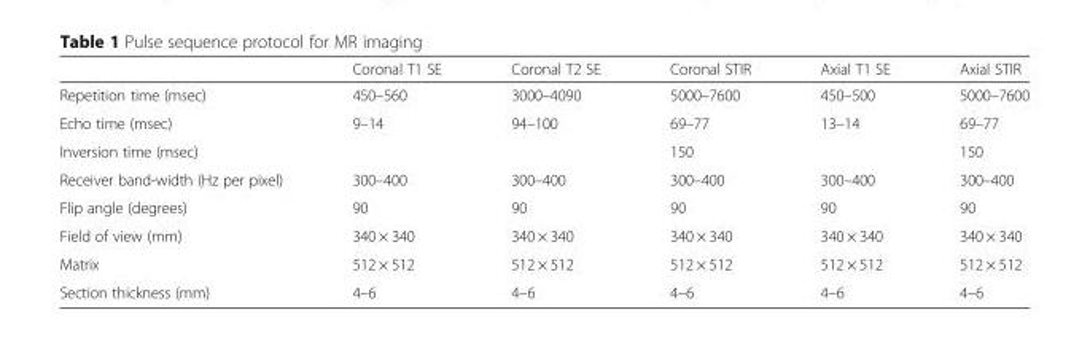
<table><thead><tr><td></td><td>Coronal T1 SE</td><td>Coronal T2 SE</td><td>Coronal STIR</td><td>Axial T1 SE</td><td>Axial STIR</td></tr></thead><tbody><tr><td>Repetition time (msec)</td><td>450–560</td><td>3000–4090</td><td>5000–7600</td><td>450–500</td><td>5000–7600</td></tr><tr><td>Echo time (msec)</td><td>9–14</td><td>94–100</td><td>69–77</td><td>13–14</td><td>69–77</td></tr><tr><td>Inversion time (msec)</td><td></td><td></td><td>150</td><td></td><td>150</td></tr><tr><td>Receiver band-width (Hz per pixel)</td><td>300–400</td><td>300–400</td><td>300–400</td><td>300–400</td><td>300–400</td></tr><tr><td>Flip angle (degrees)</td><td>90</td><td>90</td><td>90</td><td>90</td><td>90</td></tr><tr><td>Field of view (mm)</td><td>340 × 340</td><td>340 × 340</td><td>340 × 340</td><td>340 × 340</td><td>340 × 340</td></tr><tr><td>Matrix</td><td>512 × 512</td><td>512 × 512</td><td>512 × 512</td><td>512 × 512</td><td>512 × 512</td></tr><tr><td>Section thickness (mm)</td><td>4–6</td><td>4–6</td><td>4–6</td><td>4–6</td><td>4–6</td></tr></tbody></table>